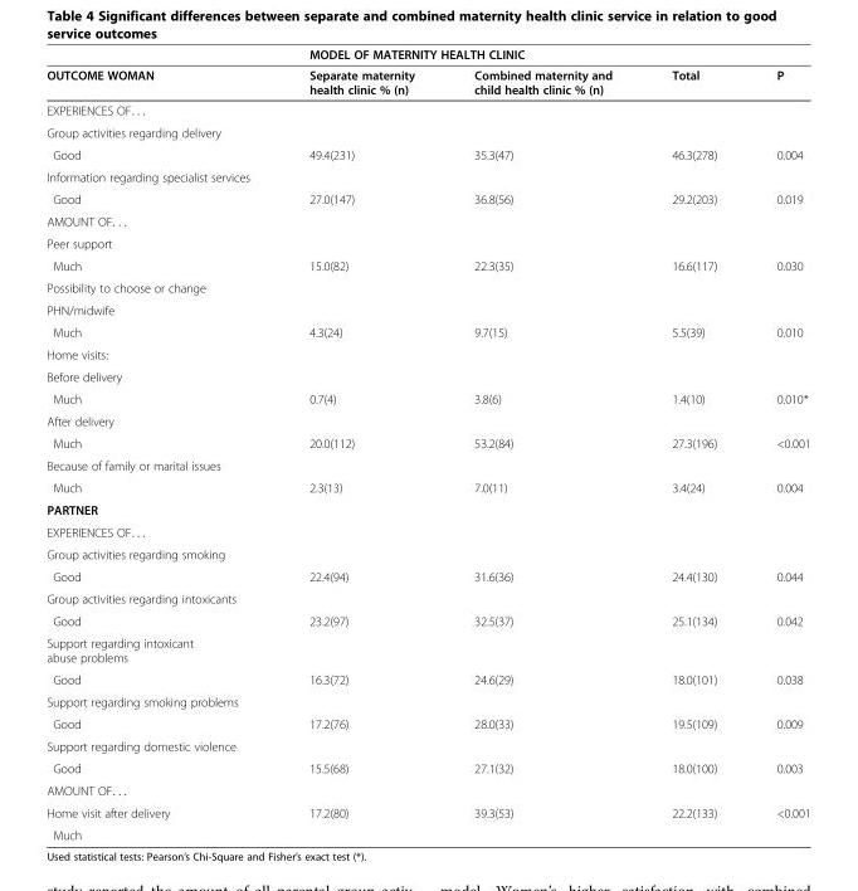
<table><thead><tr><td rowspan="2">OUTCOME WOMAN</td><td colspan="4">MODEL OF MATERNITY HEALTH CLINIC</td></tr><tr><td>Separate maternity health clinic % (n)</td><td>Combined maternity and child health clinic % (n)</td><td>Total</td><td>P</td></tr></thead><tbody><tr><td colspan="5">EXPERIENCES OF. . .</td></tr><tr><td colspan="5">Group activities regarding delivery</td></tr><tr><td>Good</td><td>49.4(231)</td><td>35.3(47)</td><td>46.3(278)</td><td>0.004</td></tr><tr><td colspan="5">Information regarding specialist services</td></tr><tr><td>Good</td><td>27.0(147)</td><td>36.8(56)</td><td>29.2(203)</td><td>0.019</td></tr><tr><td colspan="5">AMOUNT OF. . .</td></tr><tr><td colspan="5">Peer support</td></tr><tr><td>Much</td><td>15.0(82)</td><td>22.3(35)</td><td>16.6(117)</td><td>0.030</td></tr><tr><td colspan="5">Possibility to choose or change</td></tr><tr><td colspan="5">PHN/midwife</td></tr><tr><td>Much</td><td>4.3(24)</td><td>9.7(15)</td><td>5.5(39)</td><td>0.010</td></tr><tr><td colspan="5">Home visits:</td></tr><tr><td colspan="5">Before delivery</td></tr><tr><td>Much</td><td>0.7(4)</td><td>3.8(6)</td><td>1.4(10)</td><td>0.010*</td></tr><tr><td colspan="5">After delivery</td></tr><tr><td>Much</td><td>20.0(112)</td><td>53.2(84)</td><td>27.3(196)</td><td>&lt;0.001</td></tr><tr><td colspan="5">Because of family or marital issues</td></tr><tr><td>Much</td><td>2.3(13)</td><td>7.0(11)</td><td>3.4(24)</td><td>0.004</td></tr><tr><td colspan="5">PARTNER</td></tr><tr><td colspan="5">EXPERIENCES OF. . .</td></tr><tr><td colspan="5">Group activities regarding smoking</td></tr><tr><td>Good</td><td>22.4(94)</td><td>31.6(36)</td><td>24.4(130)</td><td>0.044</td></tr><tr><td colspan="5">Group activities regarding intoxicants</td></tr><tr><td>Good</td><td>23.2(97)</td><td>32.5(37)</td><td>25.1(134)</td><td>0.042</td></tr><tr><td colspan="5">Support regarding intoxicant abuse problems</td></tr><tr><td>Good</td><td>16.3(72)</td><td>24.6(29)</td><td>18.0(101)</td><td>0.038</td></tr><tr><td colspan="5">Support regarding smoking problems</td></tr><tr><td>Good</td><td>17.2(76)</td><td>28.0(33)</td><td>19.5(109)</td><td>0.009</td></tr><tr><td colspan="5">Support regarding domestic violence</td></tr><tr><td>Good</td><td>15.5(68)</td><td>27.1(32)</td><td>18.0(100)</td><td>0.003</td></tr><tr><td colspan="5">AMOUNT OF. . .</td></tr><tr><td>Home visit after delivery</td><td>17.2(80)</td><td>39.3(53)</td><td>22.2(133)</td><td>&lt;0.001</td></tr><tr><td>Much</td><td></td><td></td><td></td><td></td></tr></tbody></table>